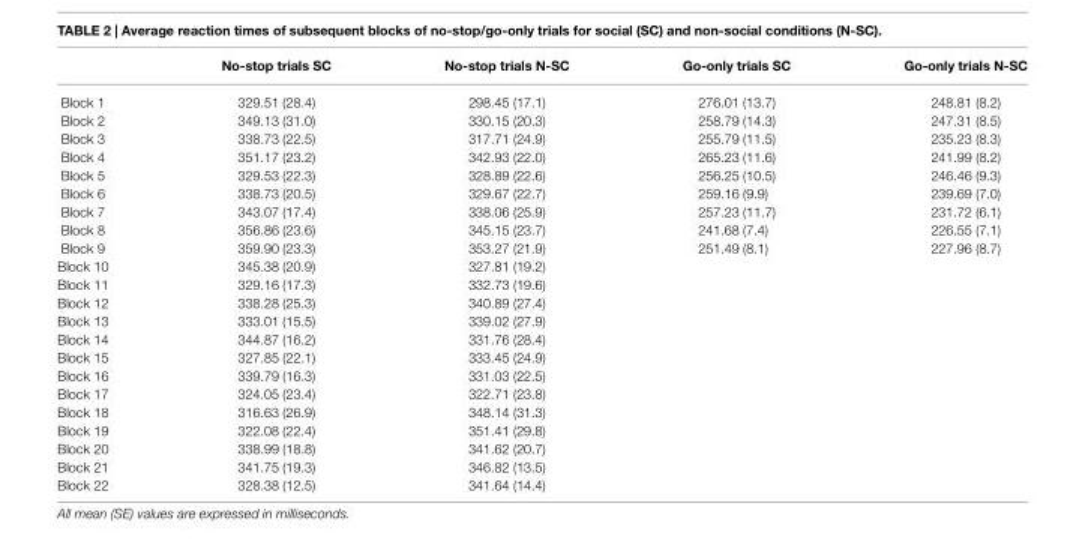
<table><thead><tr><td></td><td>No-stop trials SC</td><td>No-stop trials N-SC</td><td>Go-only trials SC</td><td>Go-only trials N-SC</td></tr></thead><tbody><tr><td>Block 1</td><td>329.51 (28.4)</td><td>298.45 (17.1)</td><td>276.01 (13.7)</td><td>248.81 (8.2)</td></tr><tr><td>Block 2</td><td>349.13 (31.0)</td><td>330.15 (20.3)</td><td>258.79 (14.3)</td><td>247.31 (8.5)</td></tr><tr><td>Block 3</td><td>338.73 (22.5)</td><td>317.71 (24.9)</td><td>255.79 (11.5)</td><td>235.23 (8.3)</td></tr><tr><td>Block 4</td><td>351.17 (23.2)</td><td>342.93 (22.0)</td><td>265.23 (11.6)</td><td>241.99 (8.2)</td></tr><tr><td>Block 5</td><td>329.53 (22.3)</td><td>328.89 (22.6)</td><td>256.25 (10.5)</td><td>246.46 (9.3)</td></tr><tr><td>Block 6</td><td>338.73 (20.5)</td><td>329.67 (22.7)</td><td>259.16 (9.9)</td><td>239.69 (7.0)</td></tr><tr><td>Block 7</td><td>343.07 (17.4)</td><td>338.06 (25.9)</td><td>257.23 (11.7)</td><td>231.72 (6.1)</td></tr><tr><td>Block 8</td><td>356.86 (23.6)</td><td>345.15 (23.7)</td><td>241.68 (7.4)</td><td>226.55 (7.1)</td></tr><tr><td>Block 9</td><td>359.90 (23.3)</td><td>353.27 (21.9)</td><td>251.49 (8.1)</td><td>227.96 (8.7)</td></tr><tr><td>Block 10</td><td>345.38 (20.9)</td><td>327.81 (19.2)</td><td></td><td></td></tr><tr><td>Block 11</td><td>329.16 (17.3)</td><td>332.73 (19.6)</td><td></td><td></td></tr><tr><td>Block 12</td><td>338.28 (25.3)</td><td>340.89 (27.4)</td><td></td><td></td></tr><tr><td>Block 13</td><td>333.01 (15.5)</td><td>339.02 (27.9)</td><td></td><td></td></tr><tr><td>Block 14</td><td>344.87 (16.2)</td><td>331.76 (28.4)</td><td></td><td></td></tr><tr><td>Block 15</td><td>327.85 (22.1)</td><td>333.45 (24.9)</td><td></td><td></td></tr><tr><td>Block 16</td><td>339.79 (16.3)</td><td>331.03 (22.5)</td><td></td><td></td></tr><tr><td>Block 17</td><td>324.05 (23.4)</td><td>322.71 (23.8)</td><td></td><td></td></tr><tr><td>Block 18</td><td>316.63 (26.9)</td><td>348.14 (31.3)</td><td></td><td></td></tr><tr><td>Block 19</td><td>322.08 (22.4)</td><td>351.41 (29.8)</td><td></td><td></td></tr><tr><td>Block 20</td><td>338.99 (18.8)</td><td>341.62 (20.7)</td><td></td><td></td></tr><tr><td>Block 21</td><td>341.75 (19.3)</td><td>346.82 (13.5)</td><td></td><td></td></tr><tr><td>Block 22</td><td>328.38 (12.5)</td><td>341.64 (14.4)</td><td></td><td></td></tr></tbody></table>